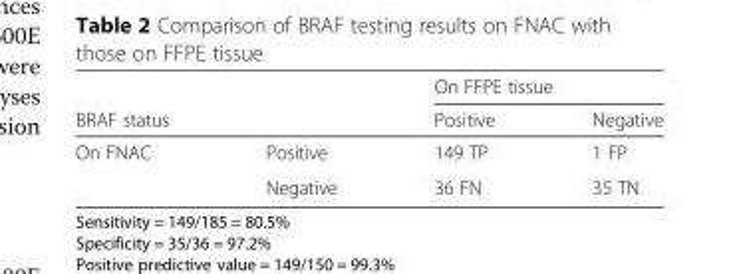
<table><thead><tr><td rowspan="2">BRAF status</td><td rowspan="2"></td><td colspan="2">On FFPE tissue</td></tr><tr><td>Positive</td><td>Negative</td></tr></thead><tbody><tr><td rowspan="2">On FNAC</td><td>Positive</td><td>149 TP</td><td>1 FP</td></tr><tr><td>Negative</td><td>36 FN</td><td>35 TN</td></tr></tbody></table>